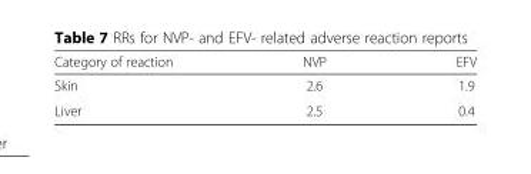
<table><thead><tr><td>Category of reaction</td><td>NVP</td><td>EFV</td></tr></thead><tbody><tr><td>Skin</td><td>2.6</td><td>1.9</td></tr><tr><td>Liver</td><td>2.5</td><td>0.4</td></tr></tbody></table>